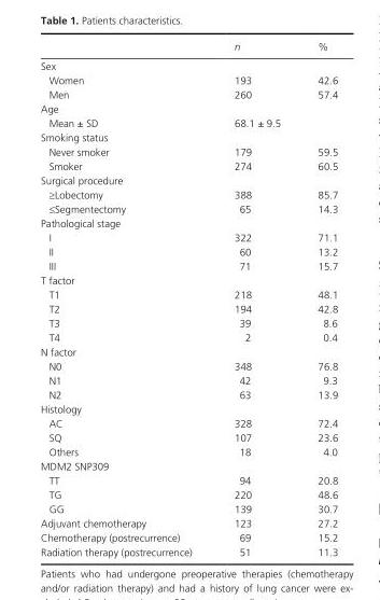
<table><thead><tr><td></td><td>n</td><td>%</td></tr></thead><tbody><tr><td colspan="3">Sex</td></tr><tr><td>Women</td><td>193</td><td>42.6</td></tr><tr><td>Men</td><td>260</td><td>57.4</td></tr><tr><td colspan="3">Age</td></tr><tr><td>Mean ± SD</td><td>68.1 ± 9.5</td><td></td></tr><tr><td colspan="3">Smoking status</td></tr><tr><td>Never smoker</td><td>179</td><td>59.5</td></tr><tr><td>Smoker</td><td>274</td><td>60.5</td></tr><tr><td colspan="3">Surgical procedure</td></tr><tr><td>≥Lobectomy</td><td>388</td><td>85.7</td></tr><tr><td>≤Segmentectomy</td><td>65</td><td>14.3</td></tr><tr><td colspan="3">Pathological stage</td></tr><tr><td>I</td><td>322</td><td>71.1</td></tr><tr><td>II</td><td>60</td><td>13.2</td></tr><tr><td>III</td><td>71</td><td>15.7</td></tr><tr><td colspan="3">T factor</td></tr><tr><td>T1</td><td>218</td><td>48.1</td></tr><tr><td>T2</td><td>194</td><td>42.8</td></tr><tr><td>T3</td><td>39</td><td>8.6</td></tr><tr><td>T4</td><td>2</td><td>0.4</td></tr><tr><td colspan="3">N factor</td></tr><tr><td>N0</td><td>348</td><td>76.8</td></tr><tr><td>N1</td><td>42</td><td>9.3</td></tr><tr><td>N2</td><td>63</td><td>13.9</td></tr><tr><td colspan="3">Histology</td></tr><tr><td>AC</td><td>328</td><td>72.4</td></tr><tr><td>SQ</td><td>107</td><td>23.6</td></tr><tr><td>Others</td><td>18</td><td>4.0</td></tr><tr><td colspan="3">MDM2 SNP309</td></tr><tr><td>TT</td><td>94</td><td>20.8</td></tr><tr><td>TG</td><td>220</td><td>48.6</td></tr><tr><td>GG</td><td>139</td><td>30.7</td></tr><tr><td>Adjuvant chemotherapy</td><td>123</td><td>27.2</td></tr><tr><td>Chemotherapy (postrecurrence)</td><td>69</td><td>15.2</td></tr><tr><td>Radiation therapy (postrecurrence)</td><td>51</td><td>11.3</td></tr></tbody></table>